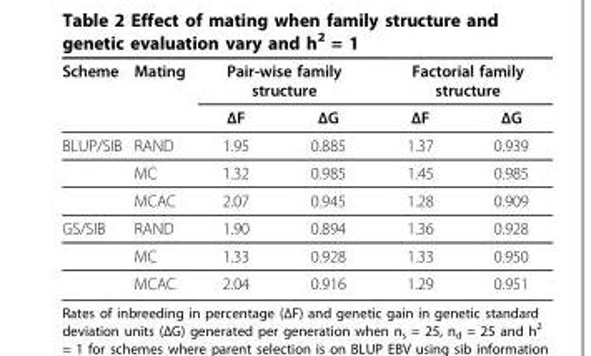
<table><thead><tr><td rowspan="2">Scheme</td><td rowspan="2">Mating</td><td colspan="2">Pair-wise family structure</td><td colspan="2">Factorial family structure</td></tr><tr><td>ΔF</td><td>ΔG</td><td>ΔF</td><td>ΔG</td></tr></thead><tbody><tr><td rowspan="3">BLUP/SIB</td><td>RAND</td><td>1.95</td><td>0.885</td><td>1.37</td><td>0.939</td></tr><tr><td>MC</td><td>1.32</td><td>0.985</td><td>1.45</td><td>0.985</td></tr><tr><td>MCAC</td><td>2.07</td><td>0.945</td><td>1.28</td><td>0.909</td></tr><tr><td rowspan="3">GS/SIB</td><td>RAND</td><td>1.90</td><td>0.894</td><td>1.36</td><td>0.928</td></tr><tr><td>MC</td><td>1.33</td><td>0.928</td><td>1.33</td><td>0.950</td></tr><tr><td>MCAC</td><td>2.04</td><td>0.916</td><td>1.29</td><td>0.951</td></tr></tbody></table>